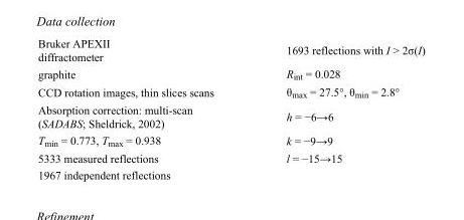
<table><tbody><tr><td>Bruker APEXII diffractometer</td><td>1693 reflections with I &gt; 2σ(I)</td></tr><tr><td>graphite</td><td>R<sub>int</sub> = 0.028</td></tr><tr><td>CCD rotation images, thin slices scans</td><td>θ<sub>max</sub> = 27.5°, θ<sub>min</sub> = 2.8°</td></tr><tr><td>Absorption correction: multi-scan (SADABS; Sheldrick, 2002)</td><td>h = −6→6</td></tr><tr><td>T<sub>min</sub> = 0.773, T<sub>max</sub> = 0.938</td><td>k = −9→9</td></tr><tr><td>5333 measured reflections</td><td>l = −15→15</td></tr><tr><td>1967 independent reflections</td><td></td></tr></tbody></table>